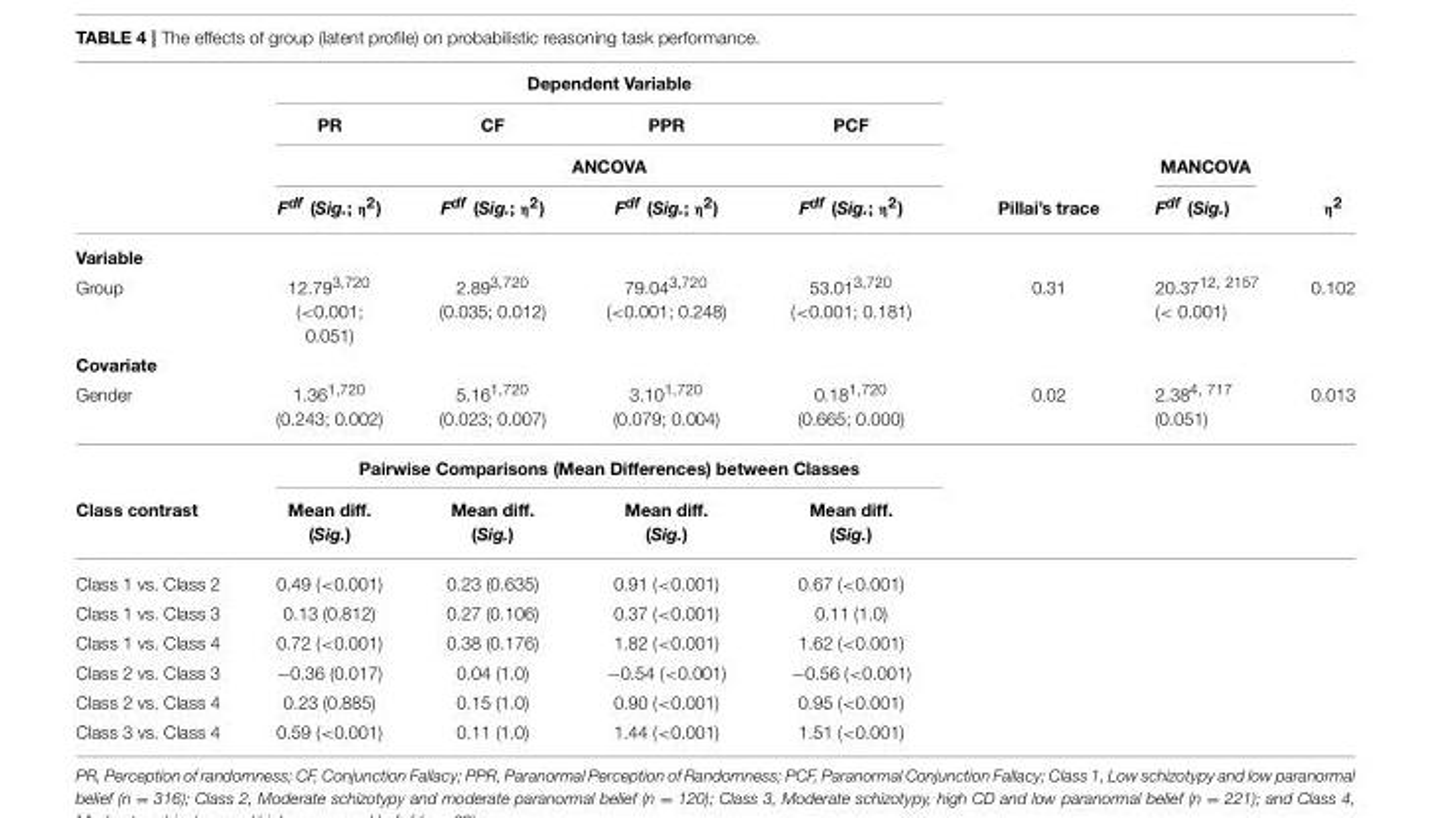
<table><thead><tr><td rowspan="4"></td><td colspan="4">Dependent Variable</td><td rowspan="4">Pillai’s trace</td><td rowspan="4">MANCOVA Fdf (Sig.)</td><td rowspan="4">η<sup>2</sup></td></tr><tr><td>PR</td><td>CF</td><td>PPR</td><td>PCF</td></tr><tr><td colspan="4">ANCOVA</td></tr><tr><td>Fdf (Sig.; η2)</td><td>Fdf (Sig.; η2)</td><td>Fdf (Sig.; η2)</td><td>Fdf (Sig.; η2)</td></tr></thead><tbody><tr><td colspan="8">Variable</td></tr><tr><td>Group</td><td>12.79<sup>3,720</sup> (&lt;0.001; 0.051)</td><td>2.89<sup>3,720</sup> (0.035; 0.012)</td><td>79.04<sup>3,720</sup> (&lt;0.001; 0.248)</td><td>53.01<sup>3,720</sup> (&lt;0.001; 0.181)</td><td>0.31</td><td>20.37<sup>12, 2157</sup> (&lt; 0.001)</td><td>0.102</td></tr><tr><td colspan="8">Covariate</td></tr><tr><td rowspan="2">Gender</td><td>1.36<sup>1,720</sup> (0.243; 0.002)</td><td>5.16<sup>1,720</sup> (0.023; 0.007)</td><td>3.10<sup>1,720</sup> (0.079; 0.004)</td><td>0.18<sup>1,720</sup> (0.665; 0.000)</td><td>0.02</td><td>2.38<sup>4, 717</sup> (0.051)</td><td>0.013</td></tr><tr><td colspan="4">Pairwise Comparisons (Mean Differences) between Classes</td><td></td><td></td><td></td></tr><tr><td>Class contrast</td><td>Mean diff. (Sig.)</td><td>Mean diff. (Sig.)</td><td>Mean diff. (Sig.)</td><td>Mean diff. (Sig.)</td><td></td><td></td><td></td></tr><tr><td>Class 1 vs. Class 2</td><td>0.49 (&lt;0.001)</td><td>0.23 (0.635)</td><td>0.91 (&lt;0.001)</td><td>0.67 (&lt;0.001)</td><td></td><td></td><td></td></tr><tr><td>Class 1 vs. Class 3</td><td>0.13 (0.812)</td><td>0.27 (0.106)</td><td>0.37 (&lt;0.001)</td><td>0.11 (1.0)</td><td></td><td></td><td></td></tr><tr><td>Class 1 vs. Class 4</td><td>0.72 (&lt;0.001)</td><td>0.38 (0.176)</td><td>1.82 (&lt;0.001)</td><td>1.62 (&lt;0.001)</td><td></td><td></td><td></td></tr><tr><td>Class 2 vs. Class 3</td><td>−0.36 (0.017)</td><td>0.04 (1.0)</td><td>−0.54 (&lt;0.001)</td><td>−0.56 (&lt;0.001)</td><td></td><td></td><td></td></tr><tr><td>Class 2 vs. Class 4</td><td>0.23 (0.885)</td><td>0.15 (1.0)</td><td>0.90 (&lt;0.001)</td><td>0.95 (&lt;0.001)</td><td></td><td></td><td></td></tr><tr><td>Class 3 vs. Class 4</td><td>0.59 (&lt;0.001)</td><td>0.11 (1.0)</td><td>1.44 (&lt;0.001)</td><td>1.51 (&lt;0.001)</td><td></td><td></td><td></td></tr></tbody></table>